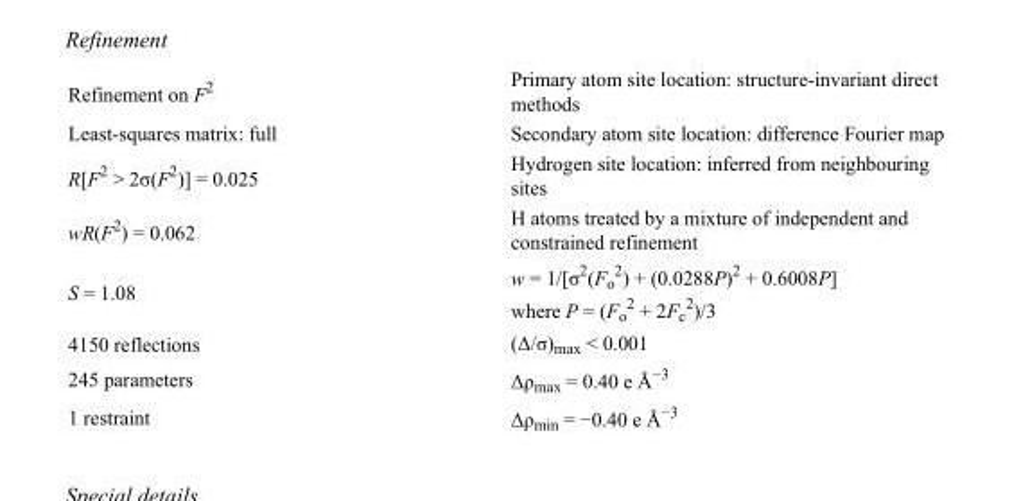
<table><tbody><tr><td>Refinement on F<sup>2</sup></td><td>Primary atom site location: structure-invariant direct methods</td></tr><tr><td>Least-squares matrix: full</td><td>Secondary atom site location: difference Fourier map</td></tr><tr><td>R[F<sup>2</sup> &gt; 2σ(F<sup>2</sup>)] = 0.025</td><td>Hydrogen site location: inferred from neighbouring sites</td></tr><tr><td>wR(F<sup>2</sup>) = 0.062</td><td>H atoms treated by a mixture of independent and constrained refinement</td></tr><tr><td>S = 1.08</td><td>w = 1/[σ<sup>2</sup>(F<sub>o</sub> <sup>2</sup>) + (0.0288P)<sup>2</sup> + 0.6008P] where P = (F<sub>o</sub> <sup>2</sup> + 2F<sub>c</sub> <sup>2</sup>)/3</td></tr><tr><td>4150 reflections</td><td>(Δ/σ)<sub>max</sub> &lt; 0.001</td></tr><tr><td>245 parameters</td><td>Δρ<sub>max</sub> = 0.40 e Å<sup>−3</sup></td></tr><tr><td>1 restraint</td><td>Δρ<sub>min</sub> = −0.40 e Å<sup>−3</sup></td></tr></tbody></table>